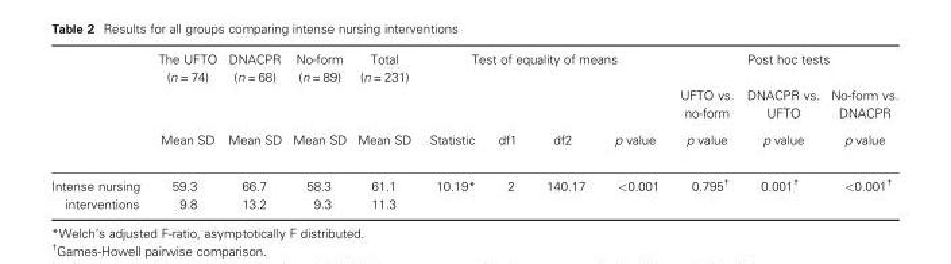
<table><thead><tr><td rowspan="3"></td><td rowspan="3">The UFTO (n = 74) Mean SD</td><td rowspan="3">DNACPR (n = 68) Mean SD</td><td rowspan="3">No-form (n = 89) Mean SD</td><td rowspan="3">Total (n = 231) Mean SD</td><td colspan="4">Test of equality of means</td><td colspan="3">Post hoc tests</td></tr><tr><td rowspan="2">Statistic</td><td rowspan="2">df1</td><td rowspan="2">df2</td><td rowspan="2">p value</td><td rowspan="2">UFTO vs. no-form p value</td><td rowspan="2">DNACPR vs. UFTO p value</td><td rowspan="2">No-form vs. DNACPR p value</td></tr><tr></tr></thead><tbody><tr><td rowspan="2">Intense nursing interventions</td><td>59.3</td><td>66.7</td><td>58.3</td><td>61.1</td><td rowspan="2">10.19*</td><td rowspan="2">2</td><td rowspan="2">140.17</td><td rowspan="2">&lt;0.001</td><td rowspan="2">0.795†</td><td rowspan="2">0.001†</td><td rowspan="2">&lt;0.001†</td></tr><tr><td>9.8</td><td>13.2</td><td>9.3</td><td>11.3</td></tr></tbody></table>